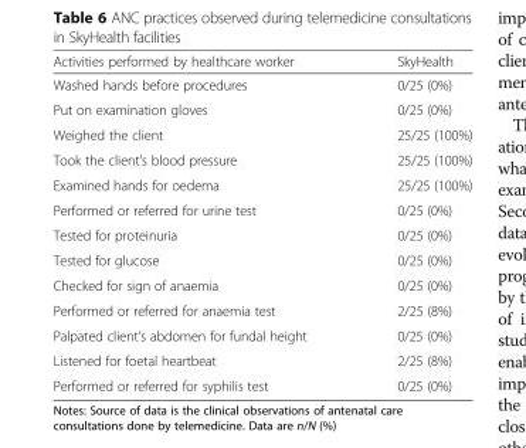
<table><thead><tr><td>Activities performed by healthcare worker</td><td>SkyHealth</td></tr></thead><tbody><tr><td>Washed hands before procedures</td><td>0/25 (0%)</td></tr><tr><td>Put on examination gloves</td><td>0/25 (0%)</td></tr><tr><td>Weighed the client</td><td>25/25 (100%)</td></tr><tr><td>Took the client’s blood pressure</td><td>25/25 (100%)</td></tr><tr><td>Examined hands for oedema</td><td>25/25 (100%)</td></tr><tr><td>Performed or referred for urine test</td><td>0/25 (0%)</td></tr><tr><td>Tested for proteinuria</td><td>0/25 (0%)</td></tr><tr><td>Tested for glucose</td><td>0/25 (0%)</td></tr><tr><td>Checked for sign of anaemia</td><td>0/25 (0%)</td></tr><tr><td>Performed or referred for anaemia test</td><td>2/25 (8%)</td></tr><tr><td>Palpated client’s abdomen for fundal height</td><td>0/25 (0%)</td></tr><tr><td>Listened for foetal heartbeat</td><td>2/25 (8%)</td></tr><tr><td>Performed or referred for syphilis test</td><td>0/25 (0%)</td></tr></tbody></table>